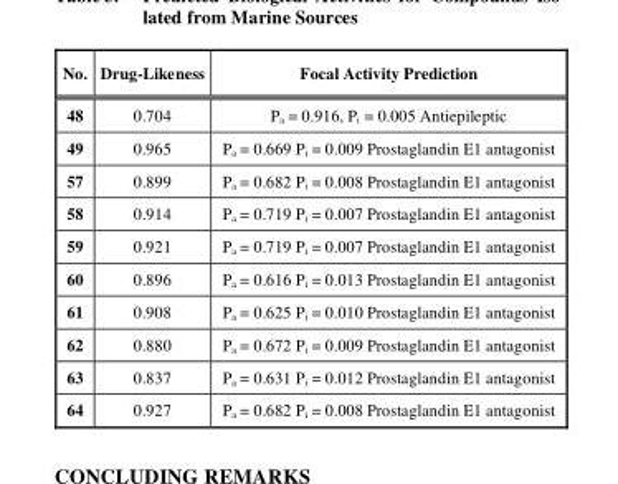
<table><thead><tr><td>No.</td><td>Drug-Likeness</td><td>Focal Activity Prediction</td></tr></thead><tbody><tr><td>48</td><td>0.704</td><td>P<sub>a</sub> = 0.916, P<sub>i</sub> = 0.005 Antiepileptic</td></tr><tr><td>49</td><td>0.965</td><td>P<sub>a</sub> = 0.669 P<sub>i</sub> = 0.009 Prostaglandin E1 antagonist</td></tr><tr><td>57</td><td>0.899</td><td>P<sub>a</sub> = 0.682 P<sub>i</sub> = 0.008 Prostaglandin E1 antagonist</td></tr><tr><td>58</td><td>0.914</td><td>P<sub>a</sub> = 0.719 P<sub>i</sub> = 0.007 Prostaglandin E1 antagonist</td></tr><tr><td>59</td><td>0.921</td><td>P<sub>a</sub> = 0.719 P<sub>i</sub> = 0.007 Prostaglandin E1 antagonist</td></tr><tr><td>60</td><td>0.896</td><td>P<sub>a</sub> = 0.616 P<sub>i</sub> = 0.013 Prostaglandin E1 antagonist</td></tr><tr><td>61</td><td>0.908</td><td>P<sub>a</sub> = 0.625 P<sub>i</sub> = 0.010 Prostaglandin E1 antagonist</td></tr><tr><td>62</td><td>0.880</td><td>P<sub>a</sub> = 0.672 P<sub>i</sub> = 0.009 Prostaglandin E1 antagonist</td></tr><tr><td>63</td><td>0.837</td><td>P<sub>a</sub> = 0.631 P<sub>i</sub> = 0.012 Prostaglandin E1 antagonist</td></tr><tr><td>64</td><td>0.927</td><td>P<sub>a</sub> = 0.682 P<sub>i</sub> = 0.008 Prostaglandin E1 antagonist</td></tr></tbody></table>